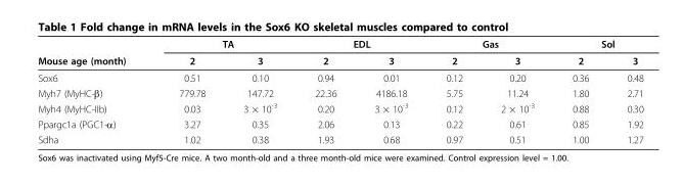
<table><thead><tr><td rowspan="2">Mouse age (month)</td><td colspan="2">TA</td><td colspan="2">EDL</td><td colspan="2">Gas</td><td colspan="2">Sol</td></tr><tr><td>2</td><td>3</td><td>2</td><td>3</td><td>2</td><td>3</td><td>2</td><td>3</td></tr></thead><tbody><tr><td>Sox6</td><td>0.51</td><td>0.10</td><td>0.94</td><td>0.01</td><td>0.12</td><td>0.20</td><td>0.36</td><td>0.48</td></tr><tr><td>Myh7 (MyHC-β)</td><td>779.78</td><td>147.72</td><td>22.36</td><td>4186.18</td><td>5.75</td><td>11.24</td><td>1.80</td><td>2.71</td></tr><tr><td>Myh4 (MyHC-IIb)</td><td>0.03</td><td>3 × 10<sup>-3</sup></td><td>0.20</td><td>3 × 10<sup>-3</sup></td><td>0.12</td><td>2 × 10<sup>-3</sup></td><td>0.88</td><td>0.30</td></tr><tr><td>Ppargc1a (PGC1-α)</td><td>3.27</td><td>0.35</td><td>2.06</td><td>0.13</td><td>0.22</td><td>0.61</td><td>0.85</td><td>1.92</td></tr><tr><td>Sdha</td><td>1.02</td><td>0.38</td><td>1.93</td><td>0.68</td><td>0.97</td><td>0.51</td><td>1.00</td><td>1.27</td></tr></tbody></table>